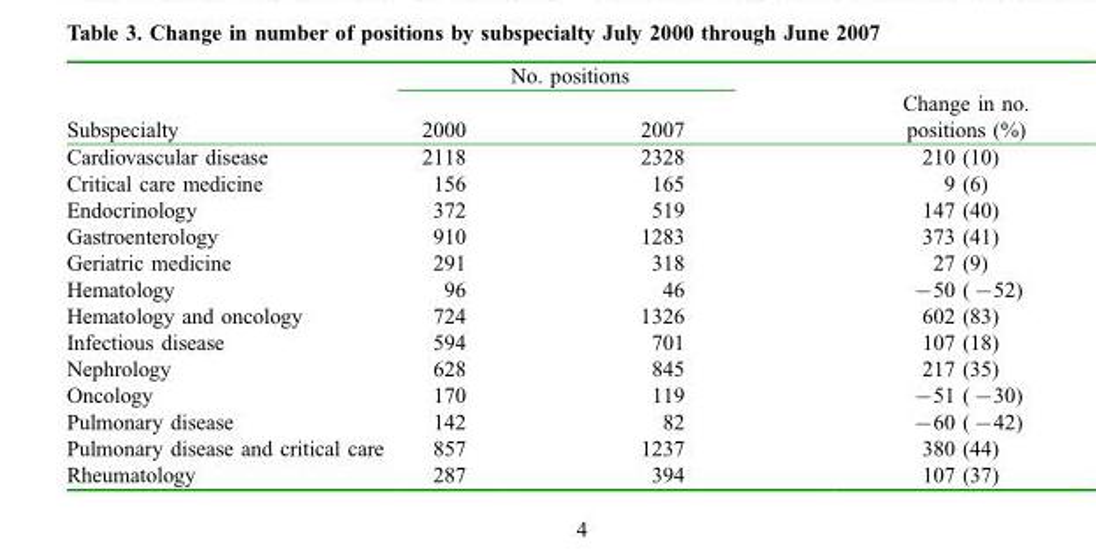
<table><thead><tr><td rowspan="2">Subspecialty</td><td colspan="2">No. positions</td><td rowspan="2">Change in no. positions (%)</td></tr><tr><td>2000</td><td>2007</td></tr></thead><tbody><tr><td>Cardiovascular disease</td><td>2118</td><td>2328</td><td>210 (10)</td></tr><tr><td>Critical care medicine</td><td>156</td><td>165</td><td>9 (6)</td></tr><tr><td>Endocrinology</td><td>372</td><td>519</td><td>147 (40)</td></tr><tr><td>Gastroenterology</td><td>910</td><td>1283</td><td>373 (41)</td></tr><tr><td>Geriatric medicine</td><td>291</td><td>318</td><td>27 (9)</td></tr><tr><td>Hematology</td><td>96</td><td>46</td><td>−50 (−52)</td></tr><tr><td>Hematology and oncology</td><td>724</td><td>1326</td><td>602 (83)</td></tr><tr><td>Infectious disease</td><td>594</td><td>701</td><td>107 (18)</td></tr><tr><td>Nephrology</td><td>628</td><td>845</td><td>217 (35)</td></tr><tr><td>Oncology</td><td>170</td><td>119</td><td>−51 (−30)</td></tr><tr><td>Pulmonary disease</td><td>142</td><td>82</td><td>−60 (−42)</td></tr><tr><td>Pulmonary disease and critical care</td><td>857</td><td>1237</td><td>380 (44)</td></tr><tr><td>Rheumatology</td><td>287</td><td>394</td><td>107 (37)</td></tr></tbody></table>